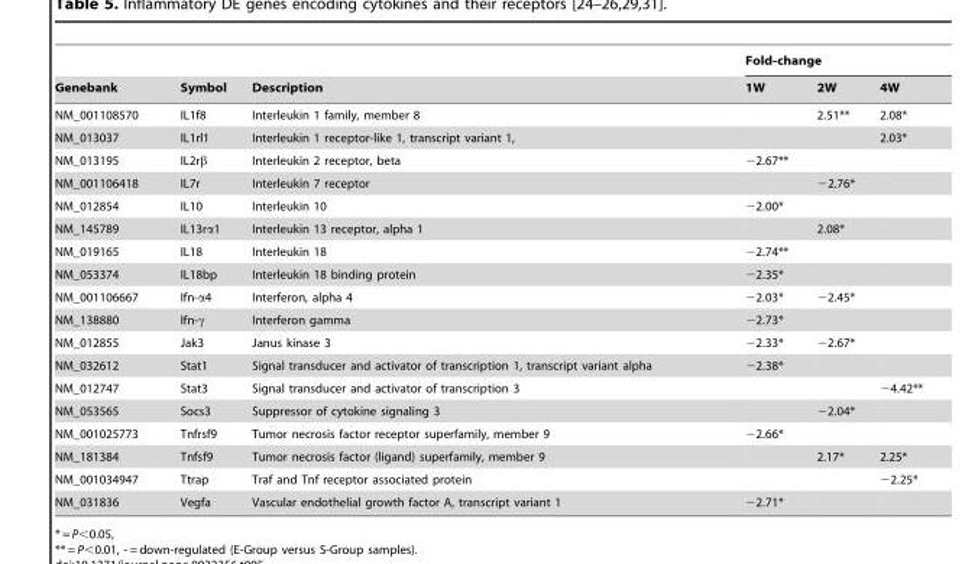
<table><thead><tr><td rowspan="2">Genebank</td><td rowspan="2">Symbol</td><td rowspan="2">Description</td><td colspan="3">Fold-change</td></tr><tr><td>1W</td><td>2W</td><td>4W</td></tr></thead><tbody><tr><td>NM_001108570</td><td>IL1f8</td><td>Interleukin 1 family, member 8</td><td></td><td>2.51**</td><td>2.08*</td></tr><tr><td>NM_013037</td><td>IL1rl1</td><td>Interleukin 1 receptor-like 1, transcript variant 1,</td><td></td><td></td><td>2.03*</td></tr><tr><td>NM_013195</td><td>IL2rβ</td><td>Interleukin 2 receptor, beta</td><td>−2.67**</td><td></td><td></td></tr><tr><td>NM_001106418</td><td>IL7r</td><td>Interleukin 7 receptor</td><td></td><td>−2.76*</td><td></td></tr><tr><td>NM_012854</td><td>IL10</td><td>Interleukin 10</td><td>−2.00*</td><td></td><td></td></tr><tr><td>NM_145789</td><td>IL13rα1</td><td>Interleukin 13 receptor, alpha 1</td><td></td><td>2.08*</td><td></td></tr><tr><td>NM_019165</td><td>IL18</td><td>Interleukin 18</td><td>−2.74**</td><td></td><td></td></tr><tr><td>NM_053374</td><td>IL18bp</td><td>Interleukin 18 binding protein</td><td>−2.35*</td><td></td><td></td></tr><tr><td>NM_001106667</td><td>Ifn-α4</td><td>Interferon, alpha 4</td><td>−2.03*</td><td>−2.45*</td><td></td></tr><tr><td>NM_138880</td><td>Ifn-γ</td><td>Interferon gamma</td><td>−2.73*</td><td></td><td></td></tr><tr><td>NM_012855</td><td>Jak3</td><td>Janus kinase 3</td><td>−2.33*</td><td>−2.67*</td><td></td></tr><tr><td>NM_032612</td><td>Stat1</td><td>Signal transducer and activator of transcription 1, transcript variant alpha</td><td>−2.38*</td><td></td><td></td></tr><tr><td>NM_012747</td><td>Stat3</td><td>Signal transducer and activator of transcription 3</td><td></td><td></td><td>−4.42**</td></tr><tr><td>NM_053565</td><td>Socs3</td><td>Suppressor of cytokine signaling 3</td><td></td><td>−2.04*</td><td></td></tr><tr><td>NM_001025773</td><td>Tnfrsf9</td><td>Tumor necrosis factor receptor superfamily, member 9</td><td>−2.66*</td><td></td><td></td></tr><tr><td>NM_181384</td><td>Tnfsf9</td><td>Tumor necrosis factor (ligand) superfamily, member 9</td><td></td><td>2.17*</td><td>2.25*</td></tr><tr><td>NM_001034947</td><td>Ttrap</td><td>Traf and Tnf receptor associated protein</td><td></td><td></td><td>−2.25*</td></tr><tr><td>NM_031836</td><td>Vegfa</td><td>Vascular endothelial growth factor A, transcript variant 1</td><td>−2.71*</td><td></td><td></td></tr></tbody></table>